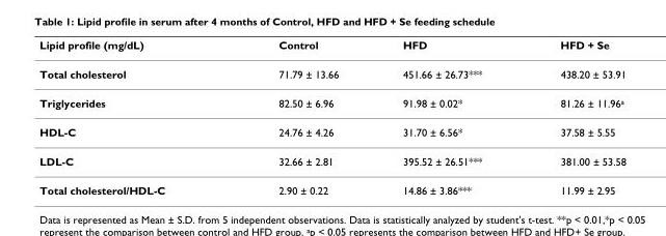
<table><thead><tr><td>Lipid profile (mg/dL)</td><td>Control</td><td>HFD</td><td>HFD + Se</td></tr></thead><tbody><tr><td>Total cholesterol</td><td>71.79 ± 13.66</td><td>451.66 ± 26.73***</td><td>438.20 ± 53.91</td></tr><tr><td>Triglycerides</td><td>82.50 ± 6.96</td><td>91.98 ± 0.02*</td><td>81.26 ± 11.96<sup>a</sup></td></tr><tr><td>HDL-C</td><td>24.76 ± 4.26</td><td>31.70 ± 6.56*</td><td>37.58 ± 5.55</td></tr><tr><td>LDL-C</td><td>32.66 ± 2.81</td><td>395.52 ± 26.51***</td><td>381.00 ± 53.58</td></tr><tr><td>Total cholesterol/HDL-C</td><td>2.90 ± 0.22</td><td>14.86 ± 3.86***</td><td>11.99 ± 2.95</td></tr></tbody></table>